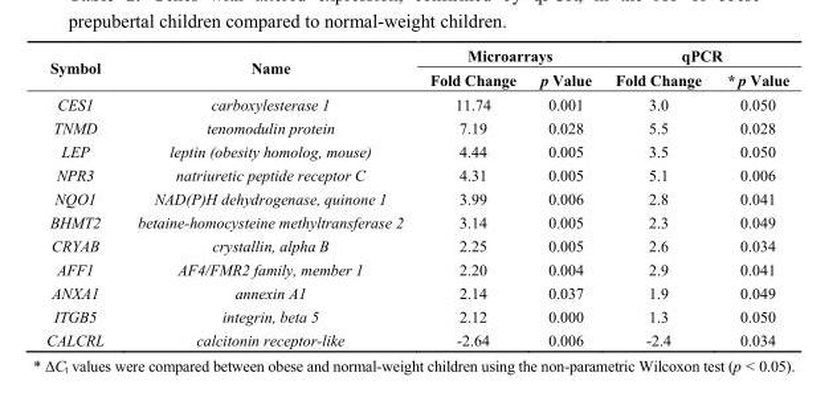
<table><thead><tr><td rowspan="2">Symbol</td><td rowspan="2">Name</td><td colspan="2">Microarrays</td><td colspan="2">qPCR</td></tr><tr><td>Fold Change</td><td>p Value</td><td>Fold Change</td><td>* p Value</td></tr></thead><tbody><tr><td>CES1</td><td>carboxylesterase 1</td><td>11.74</td><td>0.001</td><td>3.0</td><td>0.050</td></tr><tr><td>TNMD</td><td>tenomodulin protein</td><td>7.19</td><td>0.028</td><td>5.5</td><td>0.028</td></tr><tr><td>LEP</td><td>leptin (obesity homolog, mouse)</td><td>4.44</td><td>0.005</td><td>3.5</td><td>0.050</td></tr><tr><td>NPR3</td><td>natriuretic peptide receptor C</td><td>4.31</td><td>0.005</td><td>5.1</td><td>0.006</td></tr><tr><td>NQO1</td><td>NAD(P)H dehydrogenase, quinone 1</td><td>3.99</td><td>0.006</td><td>2.8</td><td>0.041</td></tr><tr><td>BHMT2</td><td>betaine-homocysteine methyltransferase 2</td><td>3.14</td><td>0.005</td><td>2.3</td><td>0.049</td></tr><tr><td>CRYAB</td><td>crystallin, alpha B</td><td>2.25</td><td>0.005</td><td>2.6</td><td>0.034</td></tr><tr><td>AFF1</td><td>AF4/FMR2 family, member 1</td><td>2.20</td><td>0.004</td><td>2.9</td><td>0.041</td></tr><tr><td>ANXA1</td><td>annexin A1</td><td>2.14</td><td>0.037</td><td>1.9</td><td>0.049</td></tr><tr><td>ITGB5</td><td>integrin, beta 5</td><td>2.12</td><td>0.000</td><td>1.3</td><td>0.050</td></tr><tr><td>CALCRL</td><td>calcitonin receptor-like</td><td>-2.64</td><td>0.006</td><td>-2.4</td><td>0.034</td></tr></tbody></table>